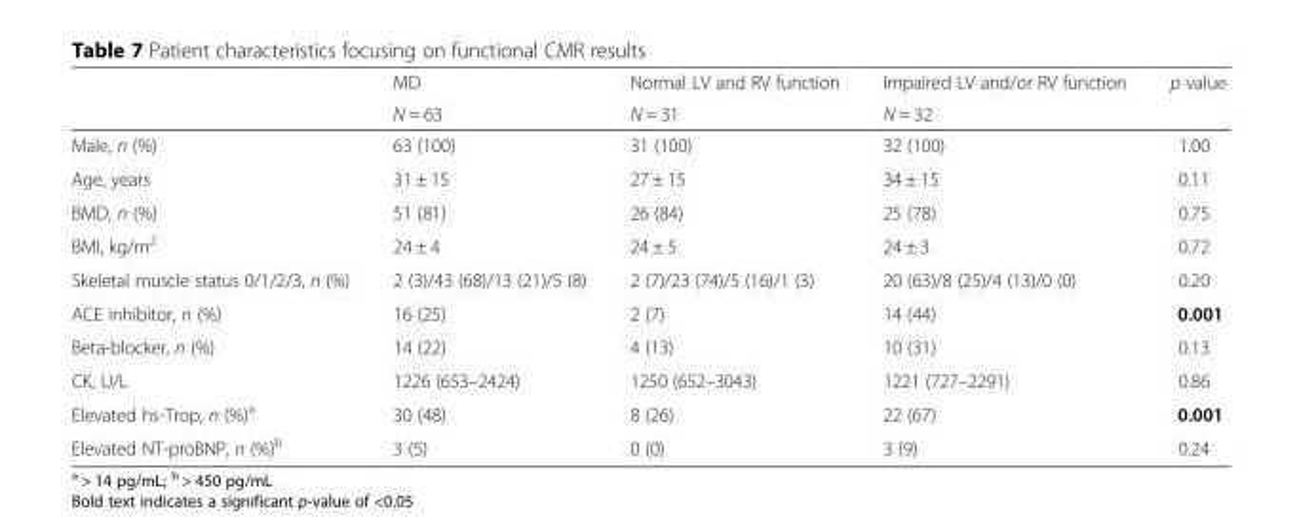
<table><thead><tr><td rowspan="2"></td><td rowspan="2">MD N = 63</td><td rowspan="2">Normal LV and RV function N = 31</td><td rowspan="2">Impaired LV and/or RV function N = 32</td><td rowspan="2">p value</td></tr><tr></tr></thead><tbody><tr><td>Male, n (%)</td><td>63 (100)</td><td>31 (100)</td><td>32 (100)</td><td>1.00</td></tr><tr><td>Age, years</td><td>31 ± 15</td><td>27 ± 15</td><td>34 ± 15</td><td>0.11</td></tr><tr><td>BMD, n (%)</td><td>51 (81)</td><td>26 (84)</td><td>25 (78)</td><td>0.75</td></tr><tr><td>BMI, kg/m<sup>2</sup></td><td>24 ± 4</td><td>24 ± 5</td><td>24 ± 3</td><td>0.72</td></tr><tr><td>Skeletal muscle status 0/1/2/3, n (%)</td><td>2 (3)/43 (68)/13 (21)/5 (8)</td><td>2 (7)/23 (74)/5 (16)/1 (3)</td><td>20 (63)/8 (25)/4 (13)/0 (0)</td><td>0.20</td></tr><tr><td>ACE inhibitor, n (%)</td><td>16 (25)</td><td>2 (7)</td><td>14 (44)</td><td>0.001</td></tr><tr><td>Beta-blocker, n (%)</td><td>14 (22)</td><td>4 (13)</td><td>10 (31)</td><td>0.13</td></tr><tr><td>CK, U/L</td><td>1226 (653–2424)</td><td>1250 (652–3043)</td><td>1221 (727–2291)</td><td>0.86</td></tr><tr><td>Elevated hs-Trop, n (%)<sup>a</sup></td><td>30 (48)</td><td>8 (26)</td><td>22 (67)</td><td>0.001</td></tr><tr><td>Elevated NT-proBNP, n (%)<sup>b</sup></td><td>3 (5)</td><td>0 (0)</td><td>3 (9)</td><td>0.24</td></tr></tbody></table>